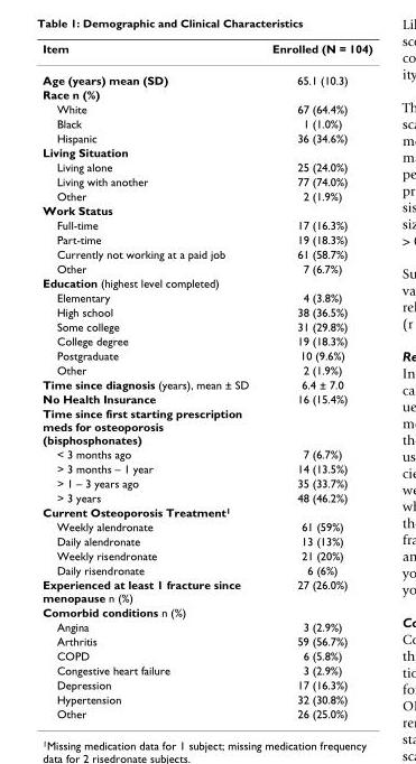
<table><thead><tr><td>Item</td><td>Enrolled (N = 104)</td></tr></thead><tbody><tr><td>Age (years) mean (SD)</td><td>65.1 (10.3)</td></tr><tr><td colspan="2">Race n (%)</td></tr><tr><td>White</td><td>67 (64.4%)</td></tr><tr><td>Black</td><td>1 (1.0%)</td></tr><tr><td>Hispanic</td><td>36 (34.6%)</td></tr><tr><td colspan="2">Living Situation</td></tr><tr><td>Living alone</td><td>25 (24.0%)</td></tr><tr><td>Living with another</td><td>77 (74.0%)</td></tr><tr><td>Other</td><td>2 (1.9%)</td></tr><tr><td colspan="2">Work Status</td></tr><tr><td>Full-time</td><td>17 (16.3%)</td></tr><tr><td>Part-time</td><td>19 (18.3%)</td></tr><tr><td>Currently not working at a paid job</td><td>61 (58.7%)</td></tr><tr><td>Other</td><td>7 (6.7%)</td></tr><tr><td colspan="2">Education (highest level completed)</td></tr><tr><td>Elementary</td><td>4 (3.8%)</td></tr><tr><td>High school</td><td>38 (36.5%)</td></tr><tr><td>Some college</td><td>31 (29.8%)</td></tr><tr><td>College degree</td><td>19 (18.3%)</td></tr><tr><td>Postgraduate</td><td>10 (9.6%)</td></tr><tr><td>Other</td><td>2 (1.9%)</td></tr><tr><td>Time since diagnosis (years), mean ± SD</td><td>6.4 ± 7.0</td></tr><tr><td>No Health Insurance</td><td>16 (15.4%)</td></tr><tr><td colspan="2">Time since first starting prescription meds for osteoporosis (bisphosphonates)</td></tr><tr><td>&lt; 3 months ago</td><td>7 (6.7%)</td></tr><tr><td>&gt; 3 months – 1 year</td><td>14 (13.5%)</td></tr><tr><td>&gt; 1 – 3 years ago</td><td>35 (33.7%)</td></tr><tr><td>&gt; 3 years</td><td>48 (46.2%)</td></tr><tr><td colspan="2">Current Osteoporosis Treatment<sup>1</sup></td></tr><tr><td>Weekly alendronate</td><td>61 (59%)</td></tr><tr><td>Daily alendronate</td><td>13 (13%)</td></tr><tr><td>Weekly risendronate</td><td>21 (20%)</td></tr><tr><td>Daily risendronate</td><td>6 (6%)</td></tr><tr><td>Experienced at least 1 fracture since menopause n (%)</td><td>27 (26.0%)</td></tr><tr><td colspan="2">Comorbid conditions n (%)</td></tr><tr><td>Angina</td><td>3 (2.9%)</td></tr><tr><td>Arthritis</td><td>59 (56.7%)</td></tr><tr><td>COPD</td><td>6 (5.8%)</td></tr><tr><td>Congestive heart failure</td><td>3 (2.9%)</td></tr><tr><td>Depression</td><td>17 (16.3%)</td></tr><tr><td>Hypertension</td><td>32 (30.8%)</td></tr><tr><td>Other</td><td>26 (25.0%)</td></tr></tbody></table>